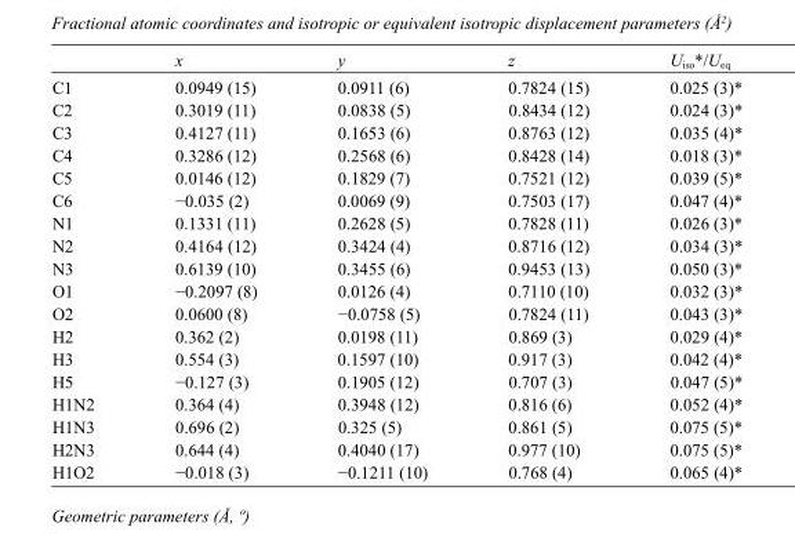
<table><thead><tr><td></td><td>x</td><td>y</td><td>z</td><td>U<sub>iso</sub>*/U<sub>eq</sub></td></tr></thead><tbody><tr><td>C1</td><td>0.0949 (15)</td><td>0.0911 (6)</td><td>0.7824 (15)</td><td>0.025 (3)*</td></tr><tr><td>C2</td><td>0.3019 (11)</td><td>0.0838 (5)</td><td>0.8434 (12)</td><td>0.024 (3)*</td></tr><tr><td>C3</td><td>0.4127 (11)</td><td>0.1653 (6)</td><td>0.8763 (12)</td><td>0.035 (4)*</td></tr><tr><td>C4</td><td>0.3286 (12)</td><td>0.2568 (6)</td><td>0.8428 (14)</td><td>0.018 (3)*</td></tr><tr><td>C5</td><td>0.0146 (12)</td><td>0.1829 (7)</td><td>0.7521 (12)</td><td>0.039 (5)*</td></tr><tr><td>C6</td><td>−0.035 (2)</td><td>0.0069 (9)</td><td>0.7503 (17)</td><td>0.047 (4)*</td></tr><tr><td>N1</td><td>0.1331 (11)</td><td>0.2628 (5)</td><td>0.7828 (11)</td><td>0.026 (3)*</td></tr><tr><td>N2</td><td>0.4164 (12)</td><td>0.3424 (4)</td><td>0.8716 (12)</td><td>0.034 (3)*</td></tr><tr><td>N3</td><td>0.6139 (10)</td><td>0.3455 (6)</td><td>0.9453 (13)</td><td>0.050 (3)*</td></tr><tr><td>O1</td><td>−0.2097 (8)</td><td>0.0126 (4)</td><td>0.7110 (10)</td><td>0.032 (3)*</td></tr><tr><td>O2</td><td>0.0600 (8)</td><td>−0.0758 (5)</td><td>0.7824 (11)</td><td>0.043 (3)*</td></tr><tr><td>H2</td><td>0.362 (2)</td><td>0.0198 (11)</td><td>0.869 (3)</td><td>0.029 (4)*</td></tr><tr><td>H3</td><td>0.554 (3)</td><td>0.1597 (10)</td><td>0.917 (3)</td><td>0.042 (4)*</td></tr><tr><td>H5</td><td>−0.127 (3)</td><td>0.1905 (12)</td><td>0.707 (3)</td><td>0.047 (5)*</td></tr><tr><td>H1N2</td><td>0.364 (4)</td><td>0.3948 (12)</td><td>0.816 (6)</td><td>0.052 (4)*</td></tr><tr><td>H1N3</td><td>0.696 (2)</td><td>0.325 (5)</td><td>0.861 (5)</td><td>0.075 (5)*</td></tr><tr><td>H2N3</td><td>0.644 (4)</td><td>0.4040 (17)</td><td>0.977 (10)</td><td>0.075 (5)*</td></tr><tr><td>H1O2</td><td>−0.018 (3)</td><td>−0.1211 (10)</td><td>0.768 (4)</td><td>0.065 (4)*</td></tr></tbody></table>